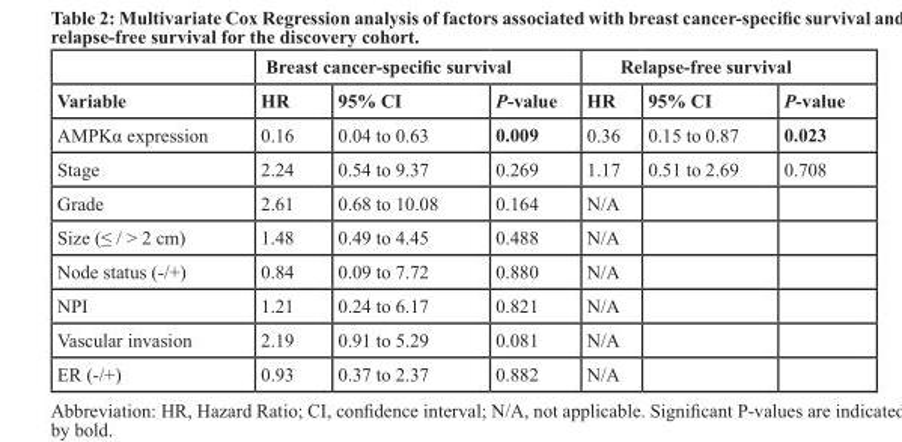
<table><thead><tr><td rowspan="2">Variable</td><td colspan="3">Breast cancer-specific survival</td><td colspan="3">Relapse-free survival</td></tr><tr><td>HR</td><td>95% CI</td><td>P-value</td><td>HR</td><td>95% CI</td><td>P-value</td></tr></thead><tbody><tr><td>AMPKα expression</td><td>0.16</td><td>0.04 to 0.63</td><td>0.009</td><td>0.36</td><td>0.15 to 0.87</td><td>0.023</td></tr><tr><td>Stage</td><td>2.24</td><td>0.54 to 9.37</td><td>0.269</td><td>1.17</td><td>0.51 to 2.69</td><td>0.708</td></tr><tr><td>Grade</td><td>2.61</td><td>0.68 to 10.08</td><td>0.164</td><td>N/A</td><td></td><td></td></tr><tr><td>Size (≤ / &gt; 2 cm)</td><td>1.48</td><td>0.49 to 4.45</td><td>0.488</td><td>N/A</td><td></td><td></td></tr><tr><td>Node status (-/+)</td><td>0.84</td><td>0.09 to 7.72</td><td>0.880</td><td>N/A</td><td></td><td></td></tr><tr><td>NPI</td><td>1.21</td><td>0.24 to 6.17</td><td>0.821</td><td>N/A</td><td></td><td></td></tr><tr><td>Vascular invasion</td><td>2.19</td><td>0.91 to 5.29</td><td>0.081</td><td>N/A</td><td></td><td></td></tr><tr><td>ER (-/+)</td><td>0.93</td><td>0.37 to 2.37</td><td>0.882</td><td>N/A</td><td></td><td></td></tr></tbody></table>